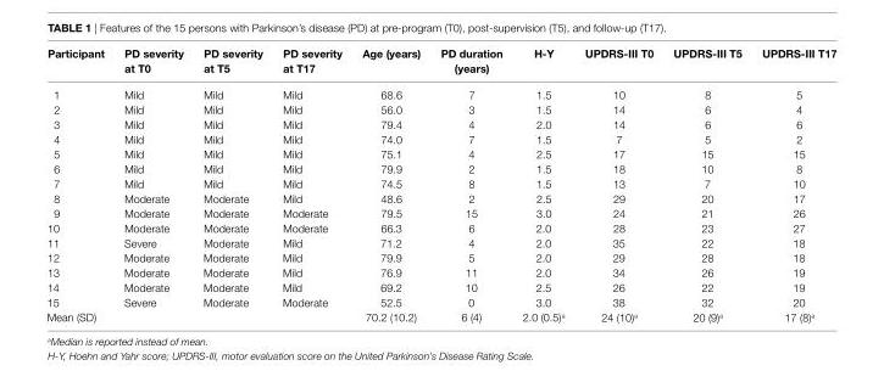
<table><thead><tr><td>Participant</td><td>PD severity at T0</td><td>PD severity at T5</td><td>PD severity at T17</td><td>age (years)</td><td>PD duration (years)</td><td>h-Y</td><td>UPDrs-iii T0</td><td>UPDrs-iii T5</td><td>UPDrs-iii T17</td></tr></thead><tbody><tr><td>1</td><td>Mild</td><td>Mild</td><td>Mild</td><td>68.6</td><td>7</td><td>1.5</td><td>10</td><td>8</td><td>5</td></tr><tr><td>2</td><td>Mild</td><td>Mild</td><td>Mild</td><td>56.0</td><td>3</td><td>1.5</td><td>14</td><td>6</td><td>4</td></tr><tr><td>3</td><td>Mild</td><td>Mild</td><td>Mild</td><td>79.4</td><td>4</td><td>2.0</td><td>14</td><td>6</td><td>6</td></tr><tr><td>4</td><td>Mild</td><td>Mild</td><td>Mild</td><td>74.0</td><td>7</td><td>1.5</td><td>7</td><td>5</td><td>2</td></tr><tr><td>5</td><td>Mild</td><td>Mild</td><td>Mild</td><td>75.1</td><td>4</td><td>2.5</td><td>17</td><td>15</td><td>15</td></tr><tr><td>6</td><td>Mild</td><td>Mild</td><td>Mild</td><td>79.9</td><td>2</td><td>1.5</td><td>18</td><td>10</td><td>8</td></tr><tr><td>7</td><td>Mild</td><td>Mild</td><td>Mild</td><td>74.5</td><td>8</td><td>1.5</td><td>13</td><td>7</td><td>10</td></tr><tr><td>8</td><td>Moderate</td><td>Moderate</td><td>Mild</td><td>48.6</td><td>2</td><td>2.5</td><td>29</td><td>20</td><td>17</td></tr><tr><td>9</td><td>Moderate</td><td>Moderate</td><td>Moderate</td><td>79.5</td><td>15</td><td>3.0</td><td>24</td><td>21</td><td>26</td></tr><tr><td>10</td><td>Moderate</td><td>Moderate</td><td>Moderate</td><td>66.3</td><td>6</td><td>2.0</td><td>28</td><td>23</td><td>27</td></tr><tr><td>11</td><td>Severe</td><td>Moderate</td><td>Mild</td><td>71.2</td><td>4</td><td>2.0</td><td>35</td><td>22</td><td>18</td></tr><tr><td>12</td><td>Moderate</td><td>Moderate</td><td>Mild</td><td>79.9</td><td>5</td><td>2.0</td><td>29</td><td>28</td><td>18</td></tr><tr><td>13</td><td>Moderate</td><td>Moderate</td><td>Mild</td><td>76.9</td><td>11</td><td>2.0</td><td>34</td><td>26</td><td>19</td></tr><tr><td>14</td><td>Moderate</td><td>Moderate</td><td>Mild</td><td>69.2</td><td>10</td><td>2.5</td><td>26</td><td>22</td><td>19</td></tr><tr><td>15</td><td>Severe</td><td>Moderate</td><td>Moderate</td><td>52.5</td><td>0</td><td>3.0</td><td>38</td><td>32</td><td>20</td></tr><tr><td>Mean (SD)</td><td></td><td></td><td></td><td>70.2 (10.2)</td><td>6 (4)</td><td>2.0 (0.5)<sup>a</sup></td><td>24 (10)<sup>a</sup></td><td>20 (9)<sup>a</sup></td><td>17 (8)<sup>a</sup></td></tr></tbody></table>